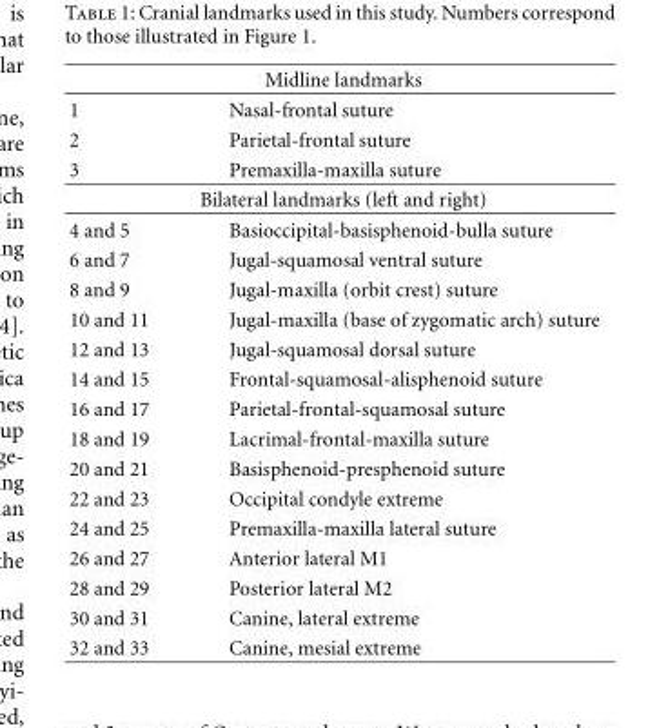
<table><thead><tr><td colspan="2">Midline landmarks</td></tr><tr><td>1</td><td>Nasal-frontal suture</td></tr></thead><tbody><tr><td>2</td><td>Parietal-frontal suture</td></tr><tr><td>3</td><td>Premaxilla-maxilla suture</td></tr><tr><td colspan="2">Bilateral landmarks (left and right)</td></tr><tr><td>4 and 5</td><td>Basioccipital-basisphenoid-bulla suture</td></tr><tr><td>6 and 7</td><td>Jugal-squamosal ventral suture</td></tr><tr><td>8 and 9</td><td>Jugal-maxilla (orbit crest) suture</td></tr><tr><td>10 and 11</td><td>Jugal-maxilla (base of zygomatic arch) suture</td></tr><tr><td>12 and 13</td><td>Jugal-squamosal dorsal suture</td></tr><tr><td>14 and 15</td><td>Frontal-squamosal-alisphenoid suture</td></tr><tr><td>16 and 17</td><td>Parietal-frontal-squamosal suture</td></tr><tr><td>18 and 19</td><td>Lacrimal-frontal-maxilla suture</td></tr><tr><td>20 and 21</td><td>Basisphenoid-presphenoid suture</td></tr><tr><td>22 and 23</td><td>Occipital condyle extreme</td></tr><tr><td>24 and 25</td><td>Premaxilla-maxilla lateral suture</td></tr><tr><td>26 and 27</td><td>Anterior lateral M1</td></tr><tr><td>28 and 29</td><td>Posterior lateral M2</td></tr><tr><td>30 and 31</td><td>Canine, lateral extreme</td></tr><tr><td>32 and 33</td><td>Canine, mesial extreme</td></tr></tbody></table>